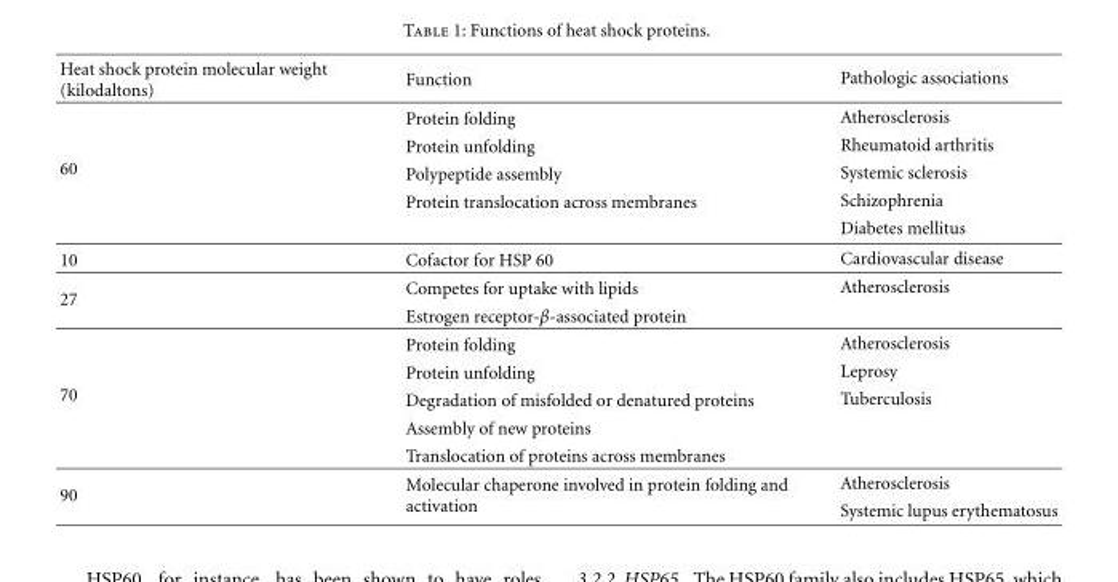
<table><thead><tr><td>Heat shock protein molecular weight (kilodaltons)</td><td>Function</td><td>Pathologic associations</td></tr></thead><tbody><tr><td rowspan="5">60</td><td>Protein folding</td><td>Atherosclerosis</td></tr><tr><td>Protein unfolding</td><td>Rheumatoid arthritis</td></tr><tr><td>Polypeptide assembly</td><td>Systemic sclerosis</td></tr><tr><td>Protein translocation across membranes</td><td>Schizophrenia</td></tr><tr><td></td><td>Diabetes mellitus</td></tr><tr><td>10</td><td>Cofactor for HSP 60</td><td>Cardiovascular disease</td></tr><tr><td rowspan="2">27</td><td>Competes for uptake with lipids</td><td>Atherosclerosis</td></tr><tr><td>Estrogen receptor-β-associated protein</td><td></td></tr><tr><td rowspan="5">70</td><td>Protein folding</td><td>Atherosclerosis</td></tr><tr><td>Protein unfolding</td><td>Leprosy</td></tr><tr><td>Degradation of misfolded or denatured proteins</td><td>Tuberculosis</td></tr><tr><td>Assembly of new proteins</td><td></td></tr><tr><td>Translocation of proteins across membranes</td><td></td></tr><tr><td rowspan="2">90</td><td rowspan="2">Molecular chaperone involved in protein folding and activation</td><td>Atherosclerosis</td></tr><tr><td>Systemic lupus erythematosus</td></tr></tbody></table>